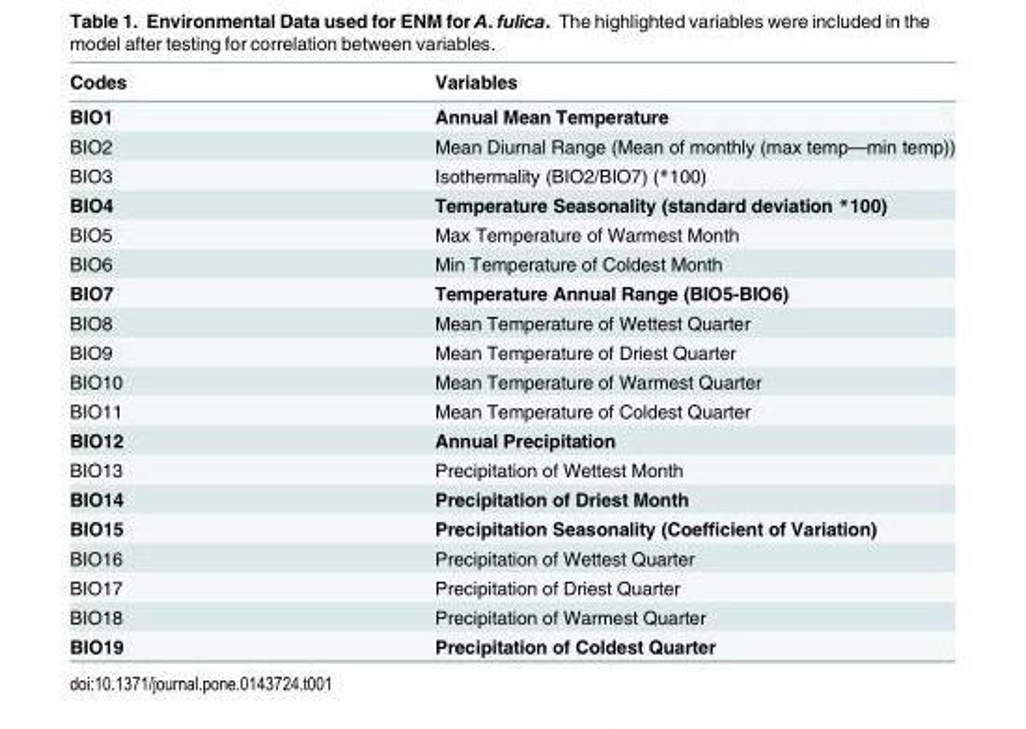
<table><thead><tr><td>Codes</td><td>Variables</td></tr></thead><tbody><tr><td>BIO1</td><td>Annual Mean Temperature</td></tr><tr><td>BIO2</td><td>Mean Diurnal Range (Mean of monthly (max temp—min temp))</td></tr><tr><td>BIO3</td><td>Isothermality (BIO2/BIO7) (*100)</td></tr><tr><td>BIO4</td><td>Temperature Seasonality (standard deviation *100)</td></tr><tr><td>BIO5</td><td>Max Temperature of Warmest Month</td></tr><tr><td>BIO6</td><td>Min Temperature of Coldest Month</td></tr><tr><td>BIO7</td><td>Temperature Annual Range (BIO5-BIO6)</td></tr><tr><td>BIO8</td><td>Mean Temperature of Wettest Quarter</td></tr><tr><td>BIO9</td><td>Mean Temperature of Driest Quarter</td></tr><tr><td>BIO10</td><td>Mean Temperature of Warmest Quarter</td></tr><tr><td>BIO11</td><td>Mean Temperature of Coldest Quarter</td></tr><tr><td>BIO12</td><td>Annual Precipitation</td></tr><tr><td>BIO13</td><td>Precipitation of Wettest Month</td></tr><tr><td>BIO14</td><td>Precipitation of Driest Month</td></tr><tr><td>BIO15</td><td>Precipitation Seasonality (Coefficient of Variation)</td></tr><tr><td>BIO16</td><td>Precipitation of Wettest Quarter</td></tr><tr><td>BIO17</td><td>Precipitation of Driest Quarter</td></tr><tr><td>BIO18</td><td>Precipitation of Warmest Quarter</td></tr><tr><td>BIO19</td><td>Precipitation of Coldest Quarter</td></tr></tbody></table>